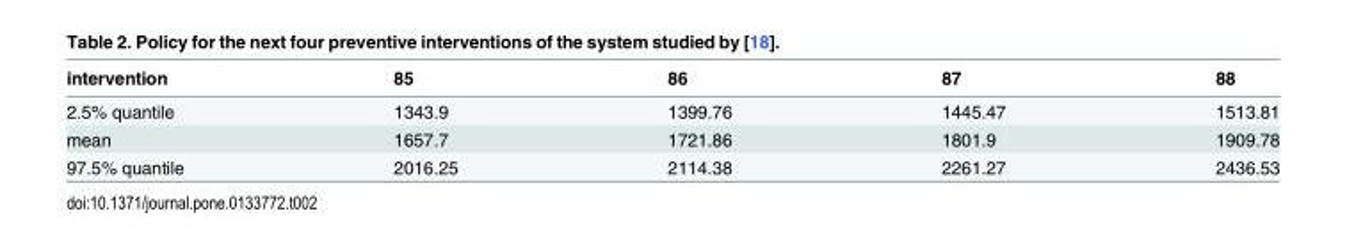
<table><thead><tr><td>intervention</td><td>85</td><td>86</td><td>87</td><td>88</td></tr></thead><tbody><tr><td>2.5% quantile</td><td>1343.9</td><td>1399.76</td><td>1445.47</td><td>1513.81</td></tr><tr><td>mean</td><td>1657.7</td><td>1721.86</td><td>1801.9</td><td>1909.78</td></tr><tr><td>97.5% quantile</td><td>2016.25</td><td>2114.38</td><td>2261.27</td><td>2436.53</td></tr></tbody></table>